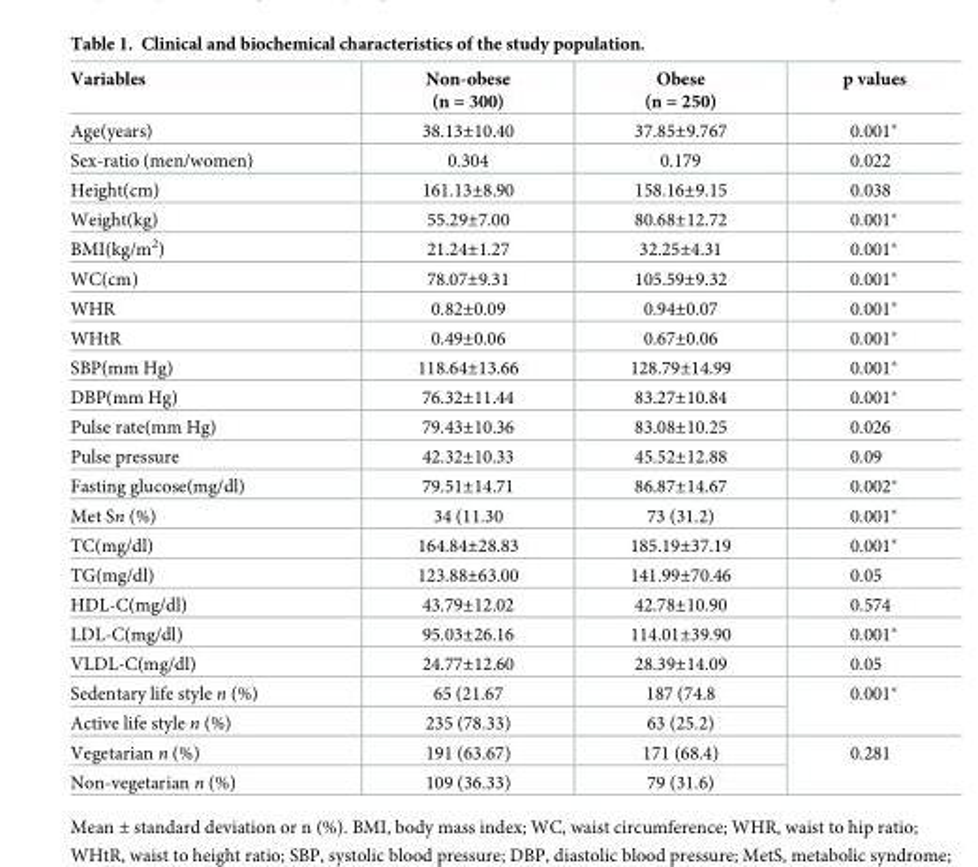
<table><thead><tr><td>Variables</td><td>Non-obese (n = 300)</td><td>Obese (n = 250)</td><td>p values</td></tr></thead><tbody><tr><td>Age(years)</td><td>38.13±10.40</td><td>37.85±9.767</td><td>0.001*</td></tr><tr><td>Sex-ratio (men/women)</td><td>0.304</td><td>0.179</td><td>0.022</td></tr><tr><td>Height(cm)</td><td>161.13±8.90</td><td>158.16±9.15</td><td>0.038</td></tr><tr><td>Weight(kg)</td><td>55.29±7.00</td><td>80.68±12.72</td><td>0.001*</td></tr><tr><td>BMI(kg/m<sup>2</sup>)</td><td>21.24±1.27</td><td>32.25±4.31</td><td>0.001*</td></tr><tr><td>WC(cm)</td><td>78.07±9.31</td><td>105.59±9.32</td><td>0.001*</td></tr><tr><td>WHR</td><td>0.82±0.09</td><td>0.94±0.07</td><td>0.001*</td></tr><tr><td>WHtR</td><td>0.49±0.06</td><td>0.67±0.06</td><td>0.001*</td></tr><tr><td>SBP(mm Hg)</td><td>118.64±13.66</td><td>128.79±14.99</td><td>0.001*</td></tr><tr><td>DBP(mm Hg)</td><td>76.32±11.44</td><td>83.27±10.84</td><td>0.001*</td></tr><tr><td>Pulse rate(mm Hg)</td><td>79.43±10.36</td><td>83.08±10.25</td><td>0.026</td></tr><tr><td>Pulse pressure</td><td>42.32±10.33</td><td>45.52±12.88</td><td>0.09</td></tr><tr><td>Fasting glucose(mg/dl)</td><td>79.51±14.71</td><td>86.87±14.67</td><td>0.002*</td></tr><tr><td>Met Sn (%)</td><td>34 (11.30</td><td>73 (31.2)</td><td>0.001*</td></tr><tr><td>TC(mg/dl)</td><td>164.84±28.83</td><td>185.19±37.19</td><td>0.001*</td></tr><tr><td>TG(mg/dl)</td><td>123.88±63.00</td><td>141.99±70.46</td><td>0.05</td></tr><tr><td>HDL-C(mg/dl)</td><td>43.79±12.02</td><td>42.78±10.90</td><td>0.574</td></tr><tr><td>LDL-C(mg/dl)</td><td>95.03±26.16</td><td>114.01±39.90</td><td>0.001*</td></tr><tr><td>VLDL-C(mg/dl)</td><td>24.77±12.60</td><td>28.39±14.09</td><td>0.05</td></tr><tr><td>Sedentary life style n (%)</td><td>65 (21.67</td><td>187 (74.8</td><td rowspan="2">0.001*</td></tr><tr><td>Active life style n (%)</td><td>235 (78.33)</td><td>63 (25.2)</td></tr><tr><td>Vegetarian n (%)</td><td>191 (63.67)</td><td>171 (68.4)</td><td rowspan="2">0.281</td></tr><tr><td>Non-vegetarian n (%)</td><td>109 (36.33)</td><td>79 (31.6)</td></tr></tbody></table>